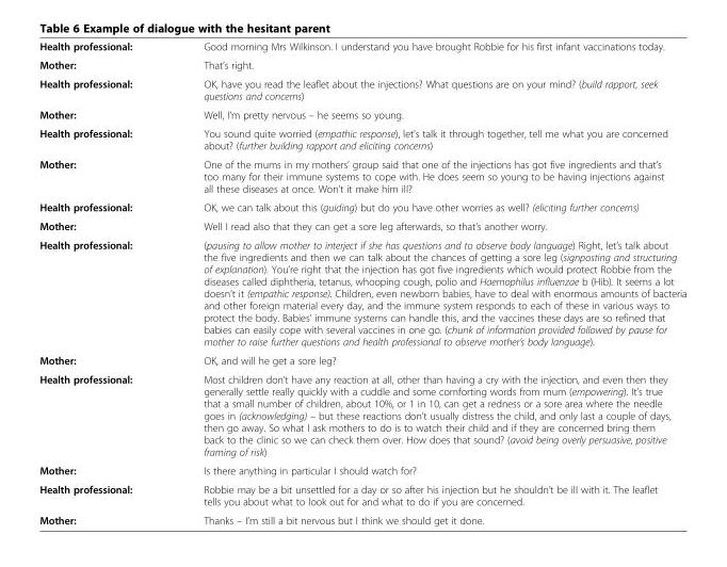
<table><tbody><tr><td>Health professional:</td><td>Good morning Mrs Wilkinson. I understand you have brought Robbie for his first infant vaccinations today.</td></tr><tr><td>Mother:</td><td>That’s right.</td></tr><tr><td>Health professional:</td><td>OK, have you read the leaflet about the injections? What questions are on your mind? (build rapport, seek questions and concerns)</td></tr><tr><td>Mother:</td><td>Well, I’m pretty nervous – he seems so young.</td></tr><tr><td>Health professional:</td><td>You sound quite worried (empathic response), let’s talk it through together, tell me what you are concerned about? (further building rapport and eliciting concerns)</td></tr><tr><td>Mother:</td><td>One of the mums in my mothers’ group said that one of the injections has got five ingredients and that’s too many for their immune systems to cope with. He does seem so young to be having injections against all these diseases at once. Won’t it make him ill?</td></tr><tr><td>Health professional:</td><td>OK, we can talk about this (guiding) but do you have other worries as well? (eliciting further concerns)</td></tr><tr><td>Mother:</td><td>Well I read also that they can get a sore leg afterwards, so that’s another worry.</td></tr><tr><td>Health professional:</td><td>(pausing to allow mother to interject if she has questions and to observe body language) Right, let’s talk about the five ingredients and then we can talk about the chances of getting a sore leg (signposting and structuring of explanation). You’re right that the injection has got five ingredients which would protect Robbie from the diseases called diphtheria, tetanus, whooping cough, polio and Haemophilus influenzae b (Hib). It seems a lot doesn’t it (empathic response). Children, even newborn babies, have to deal with enormous amounts of bacteria and other foreign material every day, and the immune system responds to each of these in various ways to protect the body. Babies’ immune systems can handle this, and the vaccines these days are so refined that babies can easily cope with several vaccines in one go. (chunk of information provided followed by pause for mother to raise further questions and health professional to observe mother’s body language).</td></tr><tr><td>Mother:</td><td>OK, and will he get a sore leg?</td></tr><tr><td>Health professional:</td><td>Most children don’t have any reaction at all, other than having a cry with the injection, and even then they generally settle really quickly with a cuddle and some comforting words from mum (empowering). It’s true that a small number of children, about 10%, or 1 in 10, can get a redness or a sore area where the needle goes in (acknowledging) – but these reactions don’t usually distress the child, and only last a couple of days, then go away. So what I ask mothers to do is to watch their child and if they are concerned bring them back to the clinic so we can check them over. How does that sound? (avoid being overly persuasive, positive framing of risk)</td></tr><tr><td>Mother:</td><td>Is there anything in particular I should watch for?</td></tr><tr><td>Health professional:</td><td>Robbie may be a bit unsettled for a day or so after his injection but he shouldn’t be ill with it. The leaflet tells you about what to look out for and what to do if you are concerned.</td></tr><tr><td>Mother:</td><td>Thanks – I’m still a bit nervous but I think we should get it done.</td></tr></tbody></table>